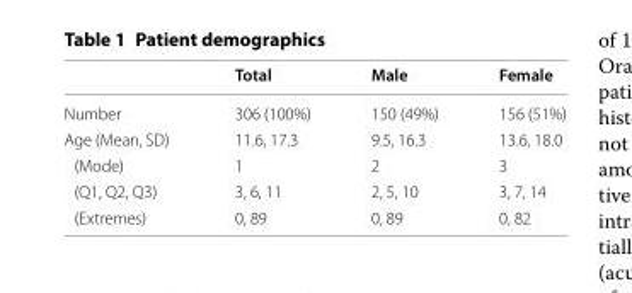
<table><thead><tr><td></td><td>Total</td><td>Male</td><td>Female</td></tr></thead><tbody><tr><td>Number</td><td>306 (100%)</td><td>150 (49%)</td><td>156 (51%)</td></tr><tr><td>Age (Mean, SD)</td><td>11.6, 17.3</td><td>9.5, 16.3</td><td>13.6, 18.0</td></tr><tr><td>(Mode)</td><td>1</td><td>2</td><td>3</td></tr><tr><td>(Q1, Q2, Q3)</td><td>3, 6, 11</td><td>2, 5, 10</td><td>3, 7, 14</td></tr><tr><td>(Extremes)</td><td>0, 89</td><td>0, 89</td><td>0, 82</td></tr></tbody></table>